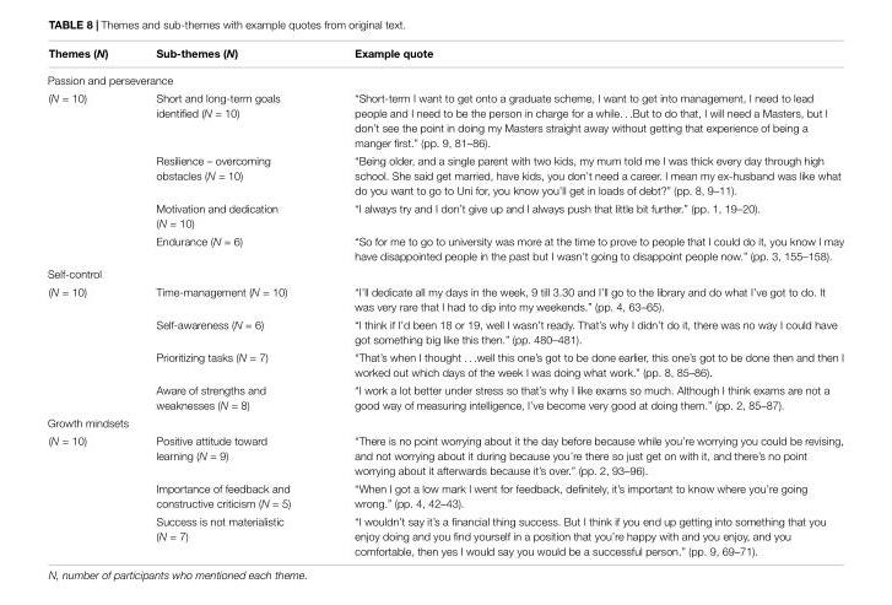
<table><thead><tr><td>Themes (N)</td><td>Sub-themes (N)</td><td>Example quote</td></tr></thead><tbody><tr><td colspan="3">Passion and perseverance</td></tr><tr><td rowspan="4">(N = 10)</td><td>Short and long-term goals identified (N = 10)</td><td>“Short-term I want to get onto a graduate scheme, I want to get into management, I need to lead people and I need to be the person in charge for a while. . .But to do that, I will need a Masters, but I don’t see the point in doing my Masters straight away without getting that experience of being a manger first.” (pp. 9, 81–86).</td></tr><tr><td>Resilience – overcoming obstacles (N = 10)</td><td>“Being older, and a single parent with two kids, my mum told me I was thick every day through high school. She said get married, have kids, you don’t need a career. I mean my ex-husband was like what do you want to go to Uni for, you know you’ll get in loads of debt?” (pp. 8, 9–11).</td></tr><tr><td>Motivation and dedication (N = 10)</td><td>“I always try and I don’t give up and I always push that little bit further.” (pp. 1, 19–20).</td></tr><tr><td>Endurance (N = 6)</td><td>“So for me to go to university was more at the time to prove to people that I could do it, you know I may have disappointed people in the past but I wasn’t going to disappoint people now.” (pp. 3, 155–158).</td></tr><tr><td colspan="3">Self-control</td></tr><tr><td rowspan="4">(N = 10)</td><td>Time-management (N = 10)</td><td>“I’ll dedicate all my days in the week, 9 till 3.30 and I’ll go to the library and do what I’ve got to do. It was very rare that I had to dip into my weekends.” (pp. 4, 63–65).</td></tr><tr><td>Self-awareness (N = 6)</td><td>“I think if I’d been 18 or 19, well I wasn’t ready. That’s why I didn’t do it, there was no way I could have got something big like this then.” (pp. 480–481).</td></tr><tr><td>Prioritizing tasks (N = 7)</td><td>“That’s when I thought . . .well this one’s got to be done earlier, this one’s got to be done then and then I worked out which days of the week I was doing what work.” (pp. 8, 85–86).</td></tr><tr><td>Aware of strengths and weaknesses (N = 8)</td><td>“I work a lot better under stress so that’s why I like exams so much. Although I think exams are not a good way of measuring intelligence, I’ve become very good at doing them.” (pp. 2, 85–87).</td></tr><tr><td colspan="3">Growth mindsets</td></tr><tr><td rowspan="3">(N = 10)</td><td>Positive attitude toward learning (N = 9)</td><td>“There is no point worrying about it the day before because while you’re worrying you could be revising, and not worrying about it during because you’re there so just get on with it, and there’s no point worrying about it afterwards because it’s over.” (pp. 2, 93–96).</td></tr><tr><td>Importance of feedback and constructive criticism (N = 5)</td><td>“When I got a low mark I went for feedback, definitely, it’s important to know where you’re going wrong.” (pp. 4, 42–43).</td></tr><tr><td>Success is not materialistic (N = 7)</td><td>“I wouldn’t say it’s a financial thing success. But I think if you end up getting into something that you enjoy doing and you find yourself in a position that you’re happy with and you enjoy, and you comfortable, then yes I would say you would be a successful person.” (pp. 9, 69–71).</td></tr></tbody></table>